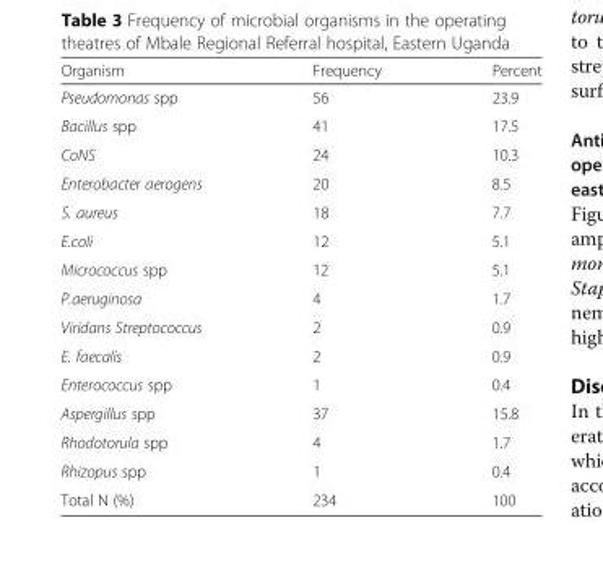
<table><thead><tr><td>Organism</td><td>Frequency</td><td>Percent</td></tr></thead><tbody><tr><td>Pseudomonas spp</td><td>56</td><td>23.9</td></tr><tr><td>Bacillus spp</td><td>41</td><td>17.5</td></tr><tr><td>CoNS</td><td>24</td><td>10.3</td></tr><tr><td>Enterobacter aerogens</td><td>20</td><td>8.5</td></tr><tr><td>S. aureus</td><td>18</td><td>7.7</td></tr><tr><td>E.coli</td><td>12</td><td>5.1</td></tr><tr><td>Micrococcus spp</td><td>12</td><td>5.1</td></tr><tr><td>P.aeruginosa</td><td>4</td><td>1.7</td></tr><tr><td>Viridans Streptococcus</td><td>2</td><td>0.9</td></tr><tr><td>E. faecalis</td><td>2</td><td>0.9</td></tr><tr><td>Enterococcus spp</td><td>1</td><td>0.4</td></tr><tr><td>Aspergillus spp</td><td>37</td><td>15.8</td></tr><tr><td>Rhodotorula spp</td><td>4</td><td>1.7</td></tr><tr><td>Rhizopus spp</td><td>1</td><td>0.4</td></tr><tr><td>Total N (%)</td><td>234</td><td>100</td></tr></tbody></table>